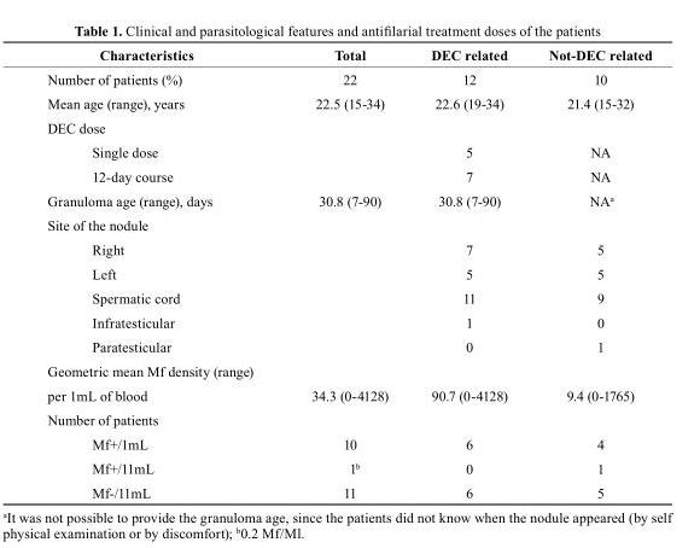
<table><thead><tr><td>characteristics</td><td>total</td><td>DEC related</td><td>Not-DEC related</td></tr></thead><tbody><tr><td>Number of patients (%)</td><td>22</td><td>12</td><td>10</td></tr><tr><td>Mean age (range), years</td><td>22.5 (15-34)</td><td>22.6 (19-34)</td><td>21.4 (15-32)</td></tr><tr><td colspan="4">DEC dose</td></tr><tr><td>Single dose</td><td></td><td>5</td><td>NA</td></tr><tr><td>12-day course</td><td></td><td>7</td><td>NA</td></tr><tr><td>Granuloma age (range), days</td><td>30.8 (7-90)</td><td>30.8 (7-90)</td><td>NA<sup>a</sup></td></tr><tr><td colspan="4">Site of the nodule</td></tr><tr><td>Right</td><td></td><td>7</td><td>5</td></tr><tr><td>Left</td><td></td><td>5</td><td>5</td></tr><tr><td>Spermatic cord</td><td></td><td>11</td><td>9</td></tr><tr><td>Infratesticular</td><td></td><td>1</td><td>0</td></tr><tr><td>Paratesticular</td><td></td><td>0</td><td>1</td></tr><tr><td colspan="4">Geometric mean Mf density (range)</td></tr><tr><td>per 1mL of blood</td><td>34.3 (0-4128)</td><td>90.7 (0-4128)</td><td>9.4 (0-1765)</td></tr><tr><td colspan="4">Number of patients</td></tr><tr><td>Mf+/1mL</td><td>10</td><td>6</td><td>4</td></tr><tr><td>Mf+/11mL</td><td>1<sup>b</sup></td><td>0</td><td>1</td></tr><tr><td>Mf-/11mL</td><td>11</td><td>6</td><td>5</td></tr></tbody></table>